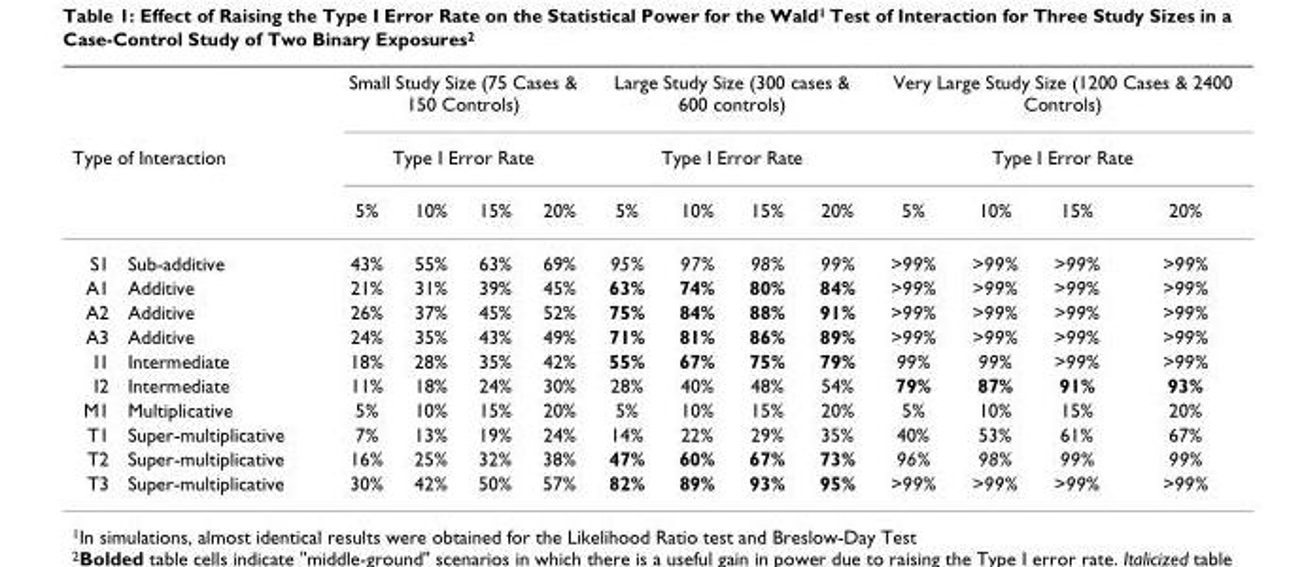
<table><thead><tr><td></td><td></td><td rowspan="2" colspan="4">Small Study Size (75 Cases &amp; 150 Controls) Type I Error Rate</td><td rowspan="2" colspan="4">Large Study Size (300 cases &amp; 600 controls) Type I Error Rate</td><td rowspan="2" colspan="4">Very Large Study Size (1200 Cases &amp; 2400 Controls) Type I Error Rate</td></tr><tr><td colspan="2">Type of Interaction</td></tr><tr><td></td><td></td><td>5%</td><td>10%</td><td>15%</td><td>20%</td><td>5%</td><td>10%</td><td>15%</td><td>20%</td><td>5%</td><td>10%</td><td>15%</td><td>20%</td></tr></thead><tbody><tr><td>S1</td><td>Sub-additive</td><td>43%</td><td>55%</td><td>63%</td><td>69%</td><td>95%</td><td>97%</td><td>98%</td><td>99%</td><td>&gt;99%</td><td>&gt;99%</td><td>&gt;99%</td><td>&gt;99%</td></tr><tr><td>A1</td><td>Additive</td><td>21%</td><td>31%</td><td>39%</td><td>45%</td><td>63%</td><td>74%</td><td>80%</td><td>84%</td><td>&gt;99%</td><td>&gt;99%</td><td>&gt;99%</td><td>&gt;99%</td></tr><tr><td>A2</td><td>Additive</td><td>26%</td><td>37%</td><td>45%</td><td>52%</td><td>75%</td><td>84%</td><td>88%</td><td>91%</td><td>&gt;99%</td><td>&gt;99%</td><td>&gt;99%</td><td>&gt;99%</td></tr><tr><td>A3</td><td>Additive</td><td>24%</td><td>35%</td><td>43%</td><td>49%</td><td>71%</td><td>81%</td><td>86%</td><td>89%</td><td>&gt;99%</td><td>&gt;99%</td><td>&gt;99%</td><td>&gt;99%</td></tr><tr><td>I1</td><td>Intermediate</td><td>18%</td><td>28%</td><td>35%</td><td>42%</td><td>55%</td><td>67%</td><td>75%</td><td>79%</td><td>99%</td><td>99%</td><td>&gt;99%</td><td>&gt;99%</td></tr><tr><td>I2</td><td>Intermediate</td><td>11%</td><td>18%</td><td>24%</td><td>30%</td><td>28%</td><td>40%</td><td>48%</td><td>54%</td><td>79%</td><td>87%</td><td>91%</td><td>93%</td></tr><tr><td>M1</td><td>Multiplicative</td><td>5%</td><td>10%</td><td>15%</td><td>20%</td><td>5%</td><td>10%</td><td>15%</td><td>20%</td><td>5%</td><td>10%</td><td>15%</td><td>20%</td></tr><tr><td>T1</td><td>Super-multiplicative</td><td>7%</td><td>13%</td><td>19%</td><td>24%</td><td>14%</td><td>22%</td><td>29%</td><td>35%</td><td>40%</td><td>53%</td><td>61%</td><td>67%</td></tr><tr><td>T2</td><td>Super-multiplicative</td><td>16%</td><td>25%</td><td>32%</td><td>38%</td><td>47%</td><td>60%</td><td>67%</td><td>73%</td><td>96%</td><td>98%</td><td>99%</td><td>99%</td></tr><tr><td>T3</td><td>Super-multiplicative</td><td>30%</td><td>42%</td><td>50%</td><td>57%</td><td>82%</td><td>89%</td><td>93%</td><td>95%</td><td>&gt;99%</td><td>&gt;99%</td><td>&gt;99%</td><td>&gt;99%</td></tr></tbody></table>